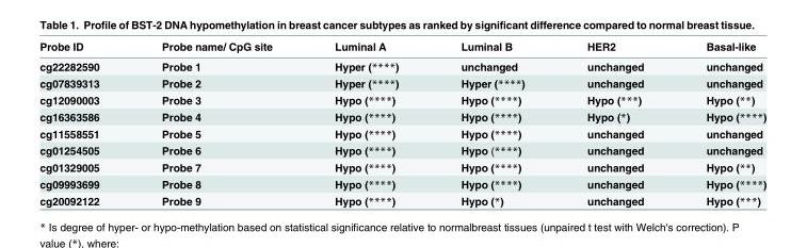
<table><thead><tr><td>Probe ID</td><td>Probe name/ CpG site</td><td>Luminal A</td><td>Luminal B</td><td>HER2</td><td>Basal-like</td></tr></thead><tbody><tr><td>cg22282590</td><td>Probe 1</td><td>Hyper (****)</td><td>unchanged</td><td>unchanged</td><td>unchanged</td></tr><tr><td>cg07839313</td><td>Probe 2</td><td>Hyper (****)</td><td>Hyper (****)</td><td>unchanged</td><td>unchanged</td></tr><tr><td>cg12090003</td><td>Probe 3</td><td>Hypo (****)</td><td>Hypo (****)</td><td>Hypo (***)</td><td>Hypo (**)</td></tr><tr><td>cg16363586</td><td>Probe 4</td><td>Hypo (****)</td><td>Hypo (****)</td><td>Hypo (*)</td><td>Hypo (****)</td></tr><tr><td>cg11558551</td><td>Probe 5</td><td>Hypo (****)</td><td>Hypo (****)</td><td>unchanged</td><td>unchanged</td></tr><tr><td>cg01254505</td><td>Probe 6</td><td>Hypo (****)</td><td>Hypo (****)</td><td>unchanged</td><td>unchanged</td></tr><tr><td>cg01329005</td><td>Probe 7</td><td>Hypo (****)</td><td>Hypo (****)</td><td>unchanged</td><td>Hypo (**)</td></tr><tr><td>cg09993699</td><td>Probe 8</td><td>Hypo (****)</td><td>Hypo (****)</td><td>unchanged</td><td>Hypo (****)</td></tr><tr><td>cg20092122</td><td>Probe 9</td><td>Hypo (****)</td><td>Hypo (*)</td><td>unchanged</td><td>Hypo (***)</td></tr></tbody></table>